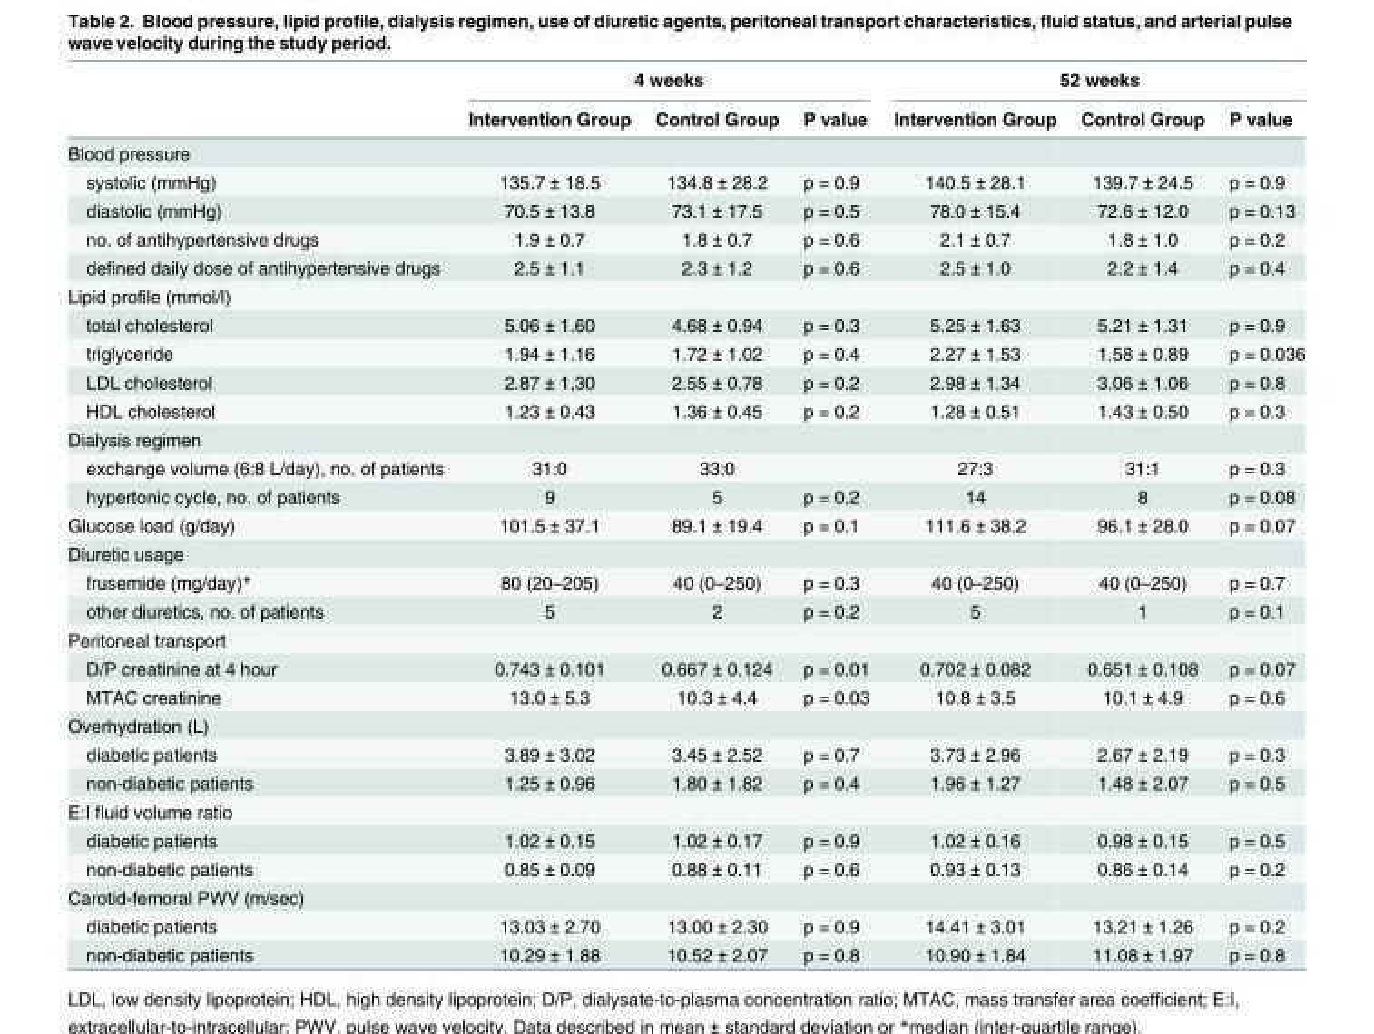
<table><thead><tr><td rowspan="2"></td><td colspan="3">4 weeks</td><td colspan="3">52 weeks</td></tr><tr><td>Intervention Group</td><td>Control Group</td><td>P value</td><td>Intervention Group</td><td>Control Group</td><td>P value</td></tr></thead><tbody><tr><td colspan="7">Blood pressure</td></tr><tr><td>systolic (mmHg)</td><td>135.7 ± 18.5</td><td>134.8 ± 28.2</td><td>p = 0.9</td><td>140.5 ± 28.1</td><td>139.7 ± 24.5</td><td>p = 0.9</td></tr><tr><td>diastolic (mmHg)</td><td>70.5 ± 13.8</td><td>73.1 ± 17.5</td><td>p = 0.5</td><td>78.0 ± 15.4</td><td>72.6 ± 12.0</td><td>p = 0.13</td></tr><tr><td>no. of antihypertensive drugs</td><td>1.9 ± 0.7</td><td>1.8 ± 0.7</td><td>p = 0.6</td><td>2.1 ± 0.7</td><td>1.8 ± 1.0</td><td>p = 0.2</td></tr><tr><td>defined daily dose of antihypertensive drugs</td><td>2.5 ± 1.1</td><td>2.3 ± 1.2</td><td>p = 0.6</td><td>2.5 ± 1.0</td><td>2.2 ± 1.4</td><td>p = 0.4</td></tr><tr><td colspan="7">Lipid profile (mmol/l)</td></tr><tr><td>total cholesterol</td><td>5.06 ± 1.60</td><td>4.68 ± 0.94</td><td>p = 0.3</td><td>5.25 ± 1.63</td><td>5.21 ± 1.31</td><td>p = 0.9</td></tr><tr><td>triglyceride</td><td>1.94 ± 1.16</td><td>1.72 ± 1.02</td><td>p = 0.4</td><td>2.27 ± 1.53</td><td>1.58 ± 0.89</td><td>p = 0.036</td></tr><tr><td>LDL cholesterol</td><td>2.87 ± 1.30</td><td>2.55 ± 0.78</td><td>p = 0.2</td><td>2.98 ± 1.34</td><td>3.06 ± 1.06</td><td>p = 0.8</td></tr><tr><td>HDL cholesterol</td><td>1.23 ± 0.43</td><td>1.36 ± 0.45</td><td>p = 0.2</td><td>1.28 ± 0.51</td><td>1.43 ± 0.50</td><td>p = 0.3</td></tr><tr><td colspan="7">Dialysis regimen</td></tr><tr><td>exchange volume (6:8 L/day), no. of patients</td><td>31:0</td><td>33:0</td><td></td><td>27:3</td><td>31:1</td><td>p = 0.3</td></tr><tr><td>hypertonic cycle, no. of patients</td><td>9</td><td>5</td><td>p = 0.2</td><td>14</td><td>8</td><td>p = 0.08</td></tr><tr><td>Glucose load (g/day)</td><td>101.5 ± 37.1</td><td>89.1 ± 19.4</td><td>p = 0.1</td><td>111.6 ± 38.2</td><td>96.1 ± 28.0</td><td>p = 0.07</td></tr><tr><td colspan="7">Diuretic usage</td></tr><tr><td>frusemide (mg/day)*</td><td>80 (20–205)</td><td>40 (0–250)</td><td>p = 0.3</td><td>40 (0–250)</td><td>40 (0–250)</td><td>p = 0.7</td></tr><tr><td>other diuretics, no. of patients</td><td>5</td><td>2</td><td>p = 0.2</td><td>5</td><td>1</td><td>p = 0.1</td></tr><tr><td colspan="7">Peritoneal transport</td></tr><tr><td>D/P creatinine at 4 hour</td><td>0.743 ± 0.101</td><td>0.667 ± 0.124</td><td>p = 0.01</td><td>0.702 ± 0.082</td><td>0.651 ± 0.108</td><td>p = 0.07</td></tr><tr><td>MTAC creatinine</td><td>13.0 ± 5.3</td><td>10.3 ± 4.4</td><td>p = 0.03</td><td>10.8 ± 3.5</td><td>10.1 ± 4.9</td><td>p = 0.6</td></tr><tr><td colspan="7">Overhydration (L)</td></tr><tr><td>diabetic patients</td><td>3.89 ± 3.02</td><td>3.45 ± 2.52</td><td>p = 0.7</td><td>3.73 ± 2.96</td><td>2.67 ± 2.19</td><td>p = 0.3</td></tr><tr><td>non-diabetic patients</td><td>1.25 ± 0.96</td><td>1.80 ± 1.82</td><td>p = 0.4</td><td>1.96 ± 1.27</td><td>1.48 ± 2.07</td><td>p = 0.5</td></tr><tr><td colspan="7">E:I fluid volume ratio</td></tr><tr><td>diabetic patients</td><td>1.02 ± 0.15</td><td>1.02 ± 0.17</td><td>p = 0.9</td><td>1.02 ± 0.16</td><td>0.98 ± 0.15</td><td>p = 0.5</td></tr><tr><td>non-diabetic patients</td><td>0.85 ± 0.09</td><td>0.88 ± 0.11</td><td>p = 0.6</td><td>0.93 ± 0.13</td><td>0.86 ± 0.14</td><td>p = 0.2</td></tr><tr><td colspan="7">Carotid-femoral PWV (m/sec)</td></tr><tr><td>diabetic patients</td><td>13.03 ± 2.70</td><td>13.00 ± 2.30</td><td>p = 0.9</td><td>14.41 ± 3.01</td><td>13.21 ± 1.26</td><td>p = 0.2</td></tr><tr><td>non-diabetic patients</td><td>10.29 ± 1.88</td><td>10.52 ± 2.07</td><td>p = 0.8</td><td>10.90 ± 1.84</td><td>11.08 ± 1.97</td><td>p = 0.8</td></tr></tbody></table>